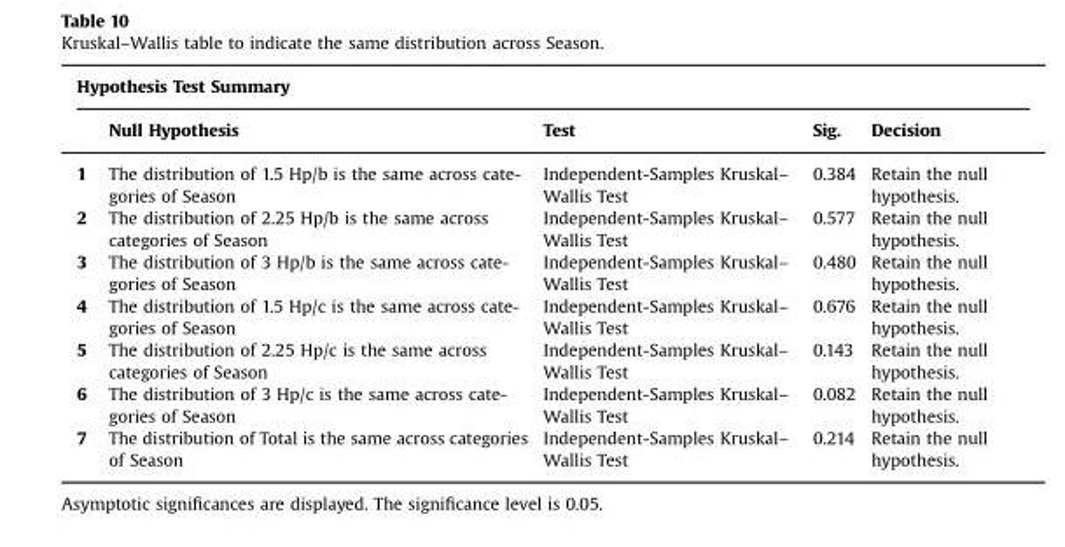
<table><thead><tr><td colspan="5">Hypothesis Test Summary</td></tr><tr><td></td><td>Null Hypothesis</td><td>Test</td><td>Sig.</td><td>Decision</td></tr></thead><tbody><tr><td>1</td><td>The distribution of 1.5 Hp/b is the same across cate- gories of Season</td><td>Independent-Samples Kruskal– Wallis Test</td><td>0.384</td><td>Retain the null hypothesis.</td></tr><tr><td>2</td><td>The distribution of 2.25 Hp/b is the same across categories of Season</td><td>Independent-Samples Kruskal– Wallis Test</td><td>0.577</td><td>Retain the null hypothesis.</td></tr><tr><td>3</td><td>The distribution of 3 Hp/b is the same across cate- gories of Season</td><td>Independent-Samples Kruskal– Wallis Test</td><td>0.480</td><td>Retain the null hypothesis.</td></tr><tr><td>4</td><td>The distribution of 1.5 Hp/c is the same across cate- gories of Season</td><td>Independent-Samples Kruskal– Wallis Test</td><td>0.676</td><td>Retain the null hypothesis.</td></tr><tr><td>5</td><td>The distribution of 2.25 Hp/c is the same across categories of Season</td><td>Independent-Samples Kruskal– Wallis Test</td><td>0.143</td><td>Retain the null hypothesis.</td></tr><tr><td>6</td><td>The distribution of 3 Hp/c is the same across cate- gories of Season</td><td>Independent-Samples Kruskal– Wallis Test</td><td>0.082</td><td>Retain the null hypothesis.</td></tr><tr><td>7</td><td>The distribution of Total is the same across categories of Season</td><td>Independent-Samples Kruskal– Wallis Test</td><td>0.214</td><td>Retain the null hypothesis.</td></tr></tbody></table>